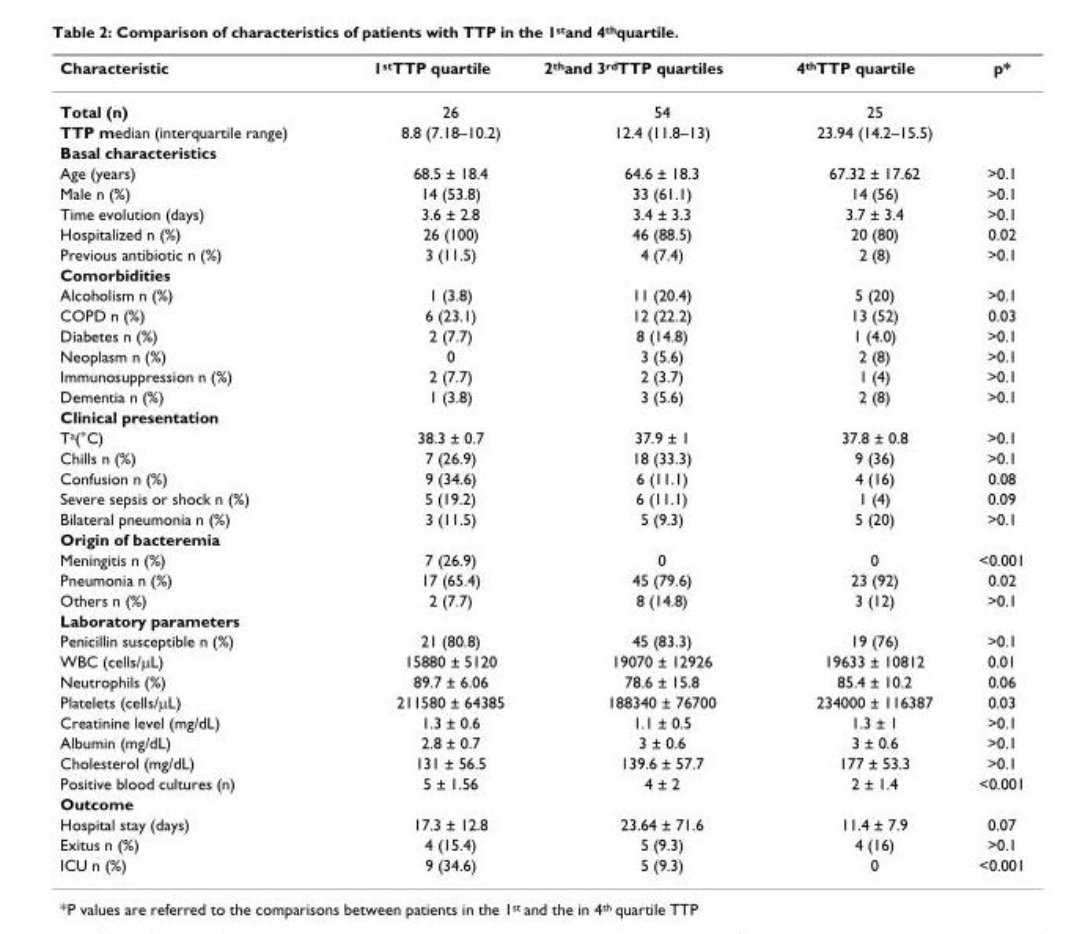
<table><thead><tr><td>Characteristic</td><td>1<sup>st</sup>TTP quartile</td><td>2<sup>th</sup>and 3<sup>rd</sup>TTP quartiles</td><td>4<sup>th</sup>TTP quartile</td><td>p*</td></tr></thead><tbody><tr><td>Total (n)</td><td>26</td><td>54</td><td>25</td><td></td></tr><tr><td>TTP median (interquartile range)</td><td>8.8 (7.18–10.2)</td><td>12.4 (11.8–13)</td><td>23.94 (14.2–15.5)</td><td></td></tr><tr><td colspan="5">Basal characteristics</td></tr><tr><td>Age (years)</td><td>68.5 ± 18.4</td><td>64.6 ± 18.3</td><td>67.32 ± 17.62</td><td>&gt;0.1</td></tr><tr><td>Male n (%)</td><td>14 (53.8)</td><td>33 (61.1)</td><td>14 (56)</td><td>&gt;0.1</td></tr><tr><td>Time evolution (days)</td><td>3.6 ± 2.8</td><td>3.4 ± 3.3</td><td>3.7 ± 3.4</td><td>&gt;0.1</td></tr><tr><td>Hospitalized n (%)</td><td>26 (100)</td><td>46 (88.5)</td><td>20 (80)</td><td>0.02</td></tr><tr><td>Previous antibiotic n (%)</td><td>3 (11.5)</td><td>4 (7.4)</td><td>2 (8)</td><td>&gt;0.1</td></tr><tr><td colspan="5">Comorbidities</td></tr><tr><td>Alcoholism n (%)</td><td>1 (3.8)</td><td>11 (20.4)</td><td>5 (20)</td><td>&gt;0.1</td></tr><tr><td>COPD n (%)</td><td>6 (23.1)</td><td>12 (22.2)</td><td>13 (52)</td><td>0.03</td></tr><tr><td>Diabetes n (%)</td><td>2 (7.7)</td><td>8 (14.8)</td><td>1 (4.0)</td><td>&gt;0.1</td></tr><tr><td>Neoplasm n (%)</td><td>0</td><td>3 (5.6)</td><td>2 (8)</td><td>&gt;0.1</td></tr><tr><td>Immunosuppression n (%)</td><td>2 (7.7)</td><td>2 (3.7)</td><td>1 (4)</td><td>&gt;0.1</td></tr><tr><td>Dementia n (%)</td><td>1 (3.8)</td><td>3 (5.6)</td><td>2 (8)</td><td>&gt;0.1</td></tr><tr><td colspan="5">Clinical presentation</td></tr><tr><td>T<sup>a</sup>(°C)</td><td>38.3 ± 0.7</td><td>37.9 ± 1</td><td>37.8 ± 0.8</td><td>&gt;0.1</td></tr><tr><td>Chills n (%)</td><td>7 (26.9)</td><td>18 (33.3)</td><td>9 (36)</td><td>&gt;0.1</td></tr><tr><td>Confusion n (%)</td><td>9 (34.6)</td><td>6 (11.1)</td><td>4 (16)</td><td>0.08</td></tr><tr><td>Severe sepsis or shock n (%)</td><td>5 (19.2)</td><td>6 (11.1)</td><td>1 (4)</td><td>0.09</td></tr><tr><td>Bilateral pneumonia n (%)</td><td>3 (11.5)</td><td>5 (9.3)</td><td>5 (20)</td><td>&gt;0.1</td></tr><tr><td colspan="5">Origin of bacteremia</td></tr><tr><td>Meningitis n (%)</td><td>7 (26.9)</td><td>0</td><td>0</td><td>&lt;0.001</td></tr><tr><td>Pneumonia n (%)</td><td>17 (65.4)</td><td>45 (79.6)</td><td>23 (92)</td><td>0.02</td></tr><tr><td>Others n (%)</td><td>2 (7.7)</td><td>8 (14.8)</td><td>3 (12)</td><td>&gt;0.1</td></tr><tr><td colspan="5">Laboratory parameters</td></tr><tr><td>Penicillin susceptible n (%)</td><td>21 (80.8)</td><td>45 (83.3)</td><td>19 (76)</td><td>&gt;0.1</td></tr><tr><td>WBC (cells/µL)</td><td>15880 ± 5120</td><td>19070 ± 12926</td><td>19633 ± 10812</td><td>0.01</td></tr><tr><td>Neutrophils (%)</td><td>89.7 ± 6.06</td><td>78.6 ± 15.8</td><td>85.4 ± 10.2</td><td>0.06</td></tr><tr><td>Platelets (cells/µL)</td><td>211580 ± 64385</td><td>188340 ± 76700</td><td>234000 ± 116387</td><td>0.03</td></tr><tr><td>Creatinine level (mg/dL)</td><td>1.3 ± 0.6</td><td>1.1 ± 0.5</td><td>1.3 ± 1</td><td>&gt;0.1</td></tr><tr><td>Albumin (mg/dL)</td><td>2.8 ± 0.7</td><td>3 ± 0.6</td><td>3 ± 0.6</td><td>&gt;0.1</td></tr><tr><td>Cholesterol (mg/dL)</td><td>131 ± 56.5</td><td>139.6 ± 57.7</td><td>177 ± 53.3</td><td>&gt;0.1</td></tr><tr><td>Positive blood cultures (n)</td><td>5 ± 1.56</td><td>4 ± 2</td><td>2 ± 1.4</td><td>&lt;0.001</td></tr><tr><td colspan="5">Outcome</td></tr><tr><td>Hospital stay (days)</td><td>17.3 ± 12.8</td><td>23.64 ± 71.6</td><td>11.4 ± 7.9</td><td>0.07</td></tr><tr><td>Exitus n (%)</td><td>4 (15.4)</td><td>5 (9.3)</td><td>4 (16)</td><td>&gt;0.1</td></tr><tr><td>ICU n (%)</td><td>9 (34.6)</td><td>5 (9.3)</td><td>0</td><td>&lt;0.001</td></tr></tbody></table>